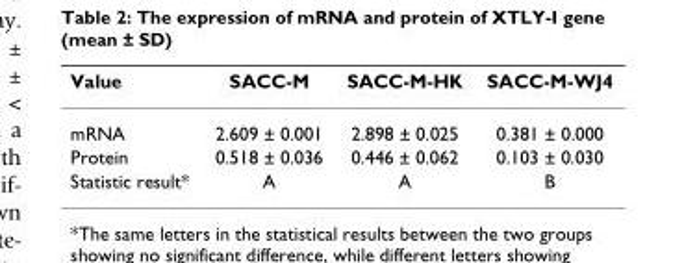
<table><thead><tr><td>Value</td><td>SACC-M</td><td>SACC-M-HK</td><td>SACC-M-WJ4</td></tr></thead><tbody><tr><td>mRNA</td><td>2.609 ± 0.001</td><td>2.898 ± 0.025</td><td>0.381 ± 0.000</td></tr><tr><td>Protein</td><td>0.518 ± 0.036</td><td>0.446 ± 0.062</td><td>0.103 ± 0.030</td></tr><tr><td>Statistic result*</td><td>A</td><td>A</td><td>B</td></tr></tbody></table>